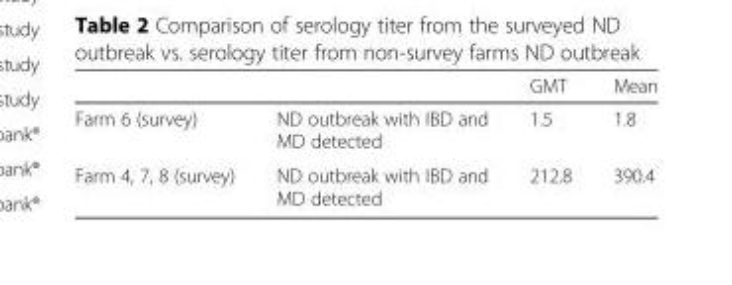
<table><thead><tr><td></td><td></td><td>GMT</td><td>Mean</td></tr></thead><tbody><tr><td>Farm 6 (survey)</td><td>ND outbreak with IBD and MD detected</td><td>1.5</td><td>1.8</td></tr><tr><td>Farm 4, 7, 8 (survey)</td><td>ND outbreak with IBD and MD detected</td><td>212.8</td><td>390.4</td></tr></tbody></table>